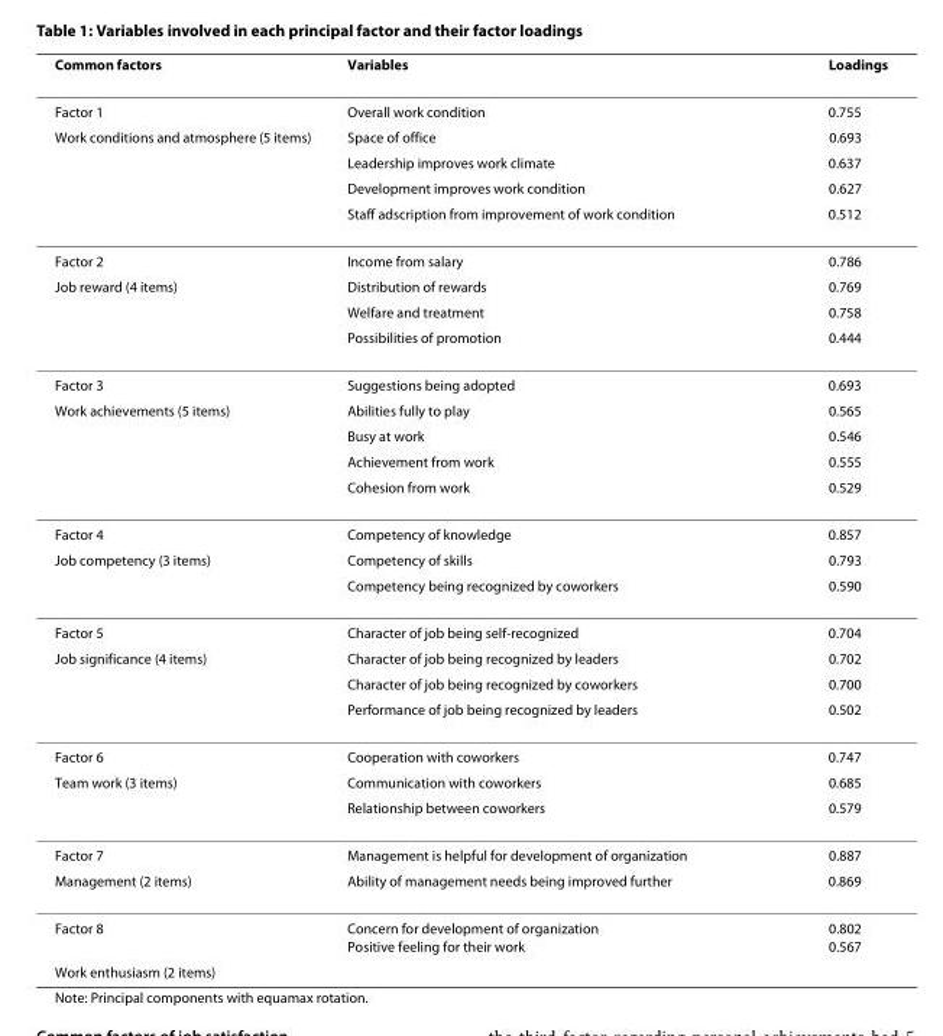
<table><thead><tr><td>Common factors</td><td>Variables</td><td>Loadings</td></tr></thead><tbody><tr><td>Factor 1</td><td>Overall work condition</td><td>0.755</td></tr><tr><td rowspan="4">Work conditions and atmosphere (5 items)</td><td>Space of office</td><td>0.693</td></tr><tr><td>Leadership improves work climate</td><td>0.637</td></tr><tr><td>Development improves work condition</td><td>0.627</td></tr><tr><td>Staff adscription from improvement of work condition</td><td>0.512</td></tr><tr><td>Factor 2</td><td>Income from salary</td><td>0.786</td></tr><tr><td rowspan="3">Job reward (4 items)</td><td>Distribution of rewards</td><td>0.769</td></tr><tr><td>Welfare and treatment</td><td>0.758</td></tr><tr><td>Possibilities of promotion</td><td>0.444</td></tr><tr><td>Factor 3</td><td>Suggestions being adopted</td><td>0.693</td></tr><tr><td rowspan="4">Work achievements (5 items)</td><td>Abilities fully to play</td><td>0.565</td></tr><tr><td>Busy at work</td><td>0.546</td></tr><tr><td>Achievement from work</td><td>0.555</td></tr><tr><td>Cohesion from work</td><td>0.529</td></tr><tr><td>Factor 4</td><td>Competency of knowledge</td><td>0.857</td></tr><tr><td rowspan="2">Job competency (3 items)</td><td>Competency of skills</td><td>0.793</td></tr><tr><td>Competency being recognized by coworkers</td><td>0.590</td></tr><tr><td>Factor 5</td><td>Character of job being self-recognized</td><td>0.704</td></tr><tr><td rowspan="3">Job significance (4 items)</td><td>Character of job being recognized by leaders</td><td>0.702</td></tr><tr><td>Character of job being recognized by coworkers</td><td>0.700</td></tr><tr><td>Performance of job being recognized by leaders</td><td>0.502</td></tr><tr><td>Factor 6</td><td>Cooperation with coworkers</td><td>0.747</td></tr><tr><td rowspan="2">Team work (3 items)</td><td>Communication with coworkers</td><td>0.685</td></tr><tr><td>Relationship between coworkers</td><td>0.579</td></tr><tr><td>Factor 7</td><td>Management is helpful for development of organization</td><td>0.887</td></tr><tr><td>Management (2 items)</td><td>Ability of management needs being improved further</td><td>0.869</td></tr><tr><td>Factor 8</td><td>Concern for development of organization Positive feeling for their work</td><td>0.802 0.567</td></tr><tr><td>Work enthusiasm (2 items)</td><td></td><td></td></tr></tbody></table>